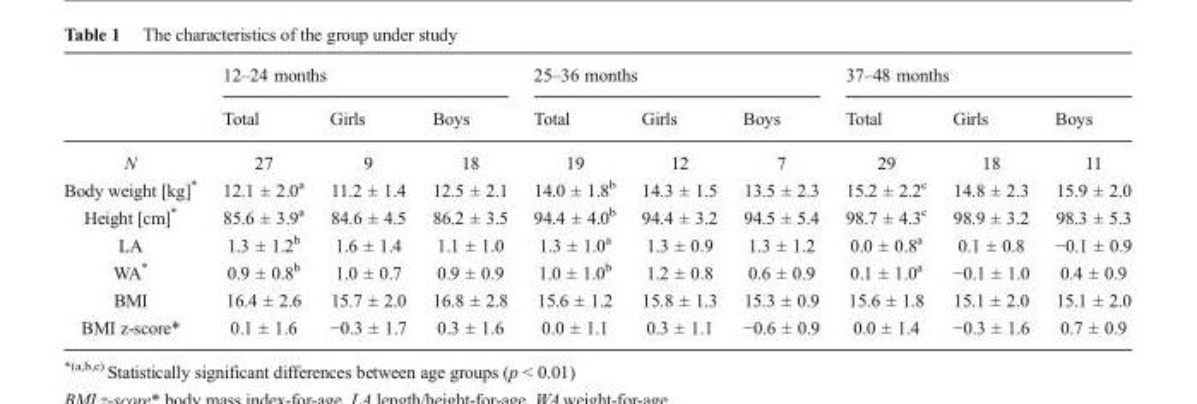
<table><thead><tr><td rowspan="2"></td><td colspan="3">12–24 months</td><td colspan="3">25–36 months</td><td colspan="3">37–48 months</td></tr><tr><td>Total</td><td>Girls</td><td>Boys</td><td>Total</td><td>Girls</td><td>Boys</td><td>Total</td><td>Girls</td><td>Boys</td></tr></thead><tbody><tr><td>N</td><td>27</td><td>9</td><td>18</td><td>19</td><td>12</td><td>7</td><td>29</td><td>18</td><td>11</td></tr><tr><td>Body weight [kg]*</td><td>12.1 ± 2.0<sup>a</sup></td><td>11.2 ± 1.4</td><td>12.5 ± 2.1</td><td>14.0 ± 1.8<sup>b</sup></td><td>14.3 ± 1.5</td><td>13.5 ± 2.3</td><td>15.2 ± 2.2<sup>c</sup></td><td>14.8 ± 2.3</td><td>15.9 ± 2.0</td></tr><tr><td>Height [cm]*</td><td>85.6 ± 3.9<sup>a</sup></td><td>84.6 ± 4.5</td><td>86.2 ± 3.5</td><td>94.4 ± 4.0<sup>b</sup></td><td>94.4 ± 3.2</td><td>94.5 ± 5.4</td><td>98.7 ± 4.3<sup>c</sup></td><td>98.9 ± 3.2</td><td>98.3 ± 5.3</td></tr><tr><td>LA</td><td>1.3 ± 1.2<sup>b</sup></td><td>1.6 ± 1.4</td><td>1.1 ± 1.0</td><td>1.3 ± 1.0<sup>a</sup></td><td>1.3 ± 0.9</td><td>1.3 ± 1.2</td><td>0.0 ± 0.8<sup>a</sup></td><td>0.1 ± 0.8</td><td>−0.1 ± 0.9</td></tr><tr><td>WA*</td><td>0.9 ± 0.8<sup>b</sup></td><td>1.0 ± 0.7</td><td>0.9 ± 0.9</td><td>1.0 ± 1.0<sup>b</sup></td><td>1.2 ± 0.8</td><td>0.6 ± 0.9</td><td>0.1 ± 1.0<sup>a</sup></td><td>−0.1 ± 1.0</td><td>0.4 ± 0.9</td></tr><tr><td>BMI</td><td>16.4 ± 2.6</td><td>15.7 ± 2.0</td><td>16.8 ± 2.8</td><td>15.6 ± 1.2</td><td>15.8 ± 1.3</td><td>15.3 ± 0.9</td><td>15.6 ± 1.8</td><td>15.1 ± 2.0</td><td>15.1 ± 2.0</td></tr><tr><td>BMI z-score*</td><td>0.1 ± 1.6</td><td>−0.3 ± 1.7</td><td>0.3 ± 1.6</td><td>0.0 ± 1.1</td><td>0.3 ± 1.1</td><td>−0.6 ± 0.9</td><td>0.0 ± 1.4</td><td>−0.3 ± 1.6</td><td>0.7 ± 0.9</td></tr></tbody></table>